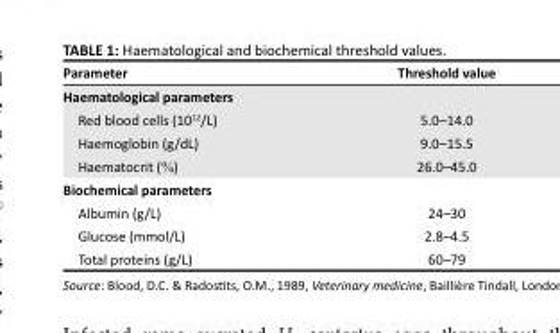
<table><thead><tr><td>Parameter</td><td>Threshold value</td></tr></thead><tbody><tr><td colspan="2">Haematological parameters</td></tr><tr><td>Red blood cells (10<sup>12</sup>/L)</td><td>5.0–14.0</td></tr><tr><td>Haemoglobin (g/dL)</td><td>9.0–15.5</td></tr><tr><td>Haematocrit (%)</td><td>26.0–45.0</td></tr><tr><td colspan="2">Biochemical parameters</td></tr><tr><td>Albumin (g/L)</td><td>24–30</td></tr><tr><td>Glucose (mmol/L)</td><td>2.8–4.5</td></tr><tr><td>Total proteins (g/L)</td><td>60–79</td></tr></tbody></table>